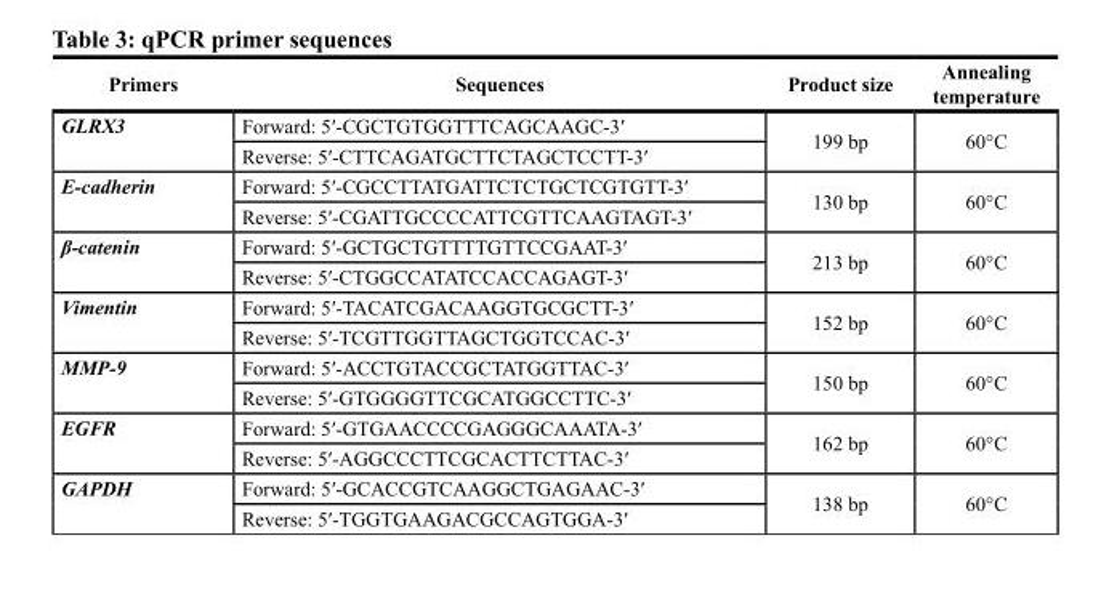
<table><thead><tr><td>Primers</td><td>sequences</td><td>Product size</td><td>Annealing temperature</td></tr></thead><tbody><tr><td rowspan="2">GLRX3</td><td>Forward: 5′-CGCTGTGGTTTCAGCAAGC-3′</td><td rowspan="2">199 bp</td><td rowspan="2">60°C</td></tr><tr><td>Reverse: 5′-CTTCAGATGCTTCTAGCTCCTT-3′</td></tr><tr><td rowspan="2">E-cadherin</td><td>Forward: 5′-CGCCTTATGATTCTCTGCTCGTGTT-3′</td><td rowspan="2">130 bp</td><td rowspan="2">60°C</td></tr><tr><td>Reverse: 5′-CGATTGCCCCATTCGTTCAAGTAGT-3′</td></tr><tr><td rowspan="2">β-catenin</td><td>Forward: 5′-GCTGCTGTTTTGTTCCGAAT-3′</td><td rowspan="2">213 bp</td><td rowspan="2">60°C</td></tr><tr><td>Reverse: 5′-CTGGCCATATCCACCAGAGT-3′</td></tr><tr><td rowspan="2">Vimentin</td><td>Forward: 5′-TACATCGACAAGGTGCGCTT-3′</td><td rowspan="2">152 bp</td><td rowspan="2">60°C</td></tr><tr><td>Reverse: 5′-TCGTTGGTTAGCTGGTCCAC-3′</td></tr><tr><td rowspan="2">MMP-9</td><td>Forward: 5′-ACCTGTACCGCTATGGTTAC-3′</td><td rowspan="2">150 bp</td><td rowspan="2">60°C</td></tr><tr><td>Reverse: 5′-GTGGGGTTCGCATGGCCTTC-3′</td></tr><tr><td rowspan="2">EGFR</td><td>Forward: 5′-GTGAACCCCGAGGGCAAATA-3′</td><td rowspan="2">162 bp</td><td rowspan="2">60°C</td></tr><tr><td>Reverse: 5′-AGGCCCTTCGCACTTCTTAC-3′</td></tr><tr><td rowspan="2">GAPDH</td><td>Forward: 5′-GCACCGTCAAGGCTGAGAAC-3′</td><td rowspan="2">138 bp</td><td rowspan="2">60°C</td></tr><tr><td>Reverse: 5′-TGGTGAAGACGCCAGTGGA-3′</td></tr></tbody></table>